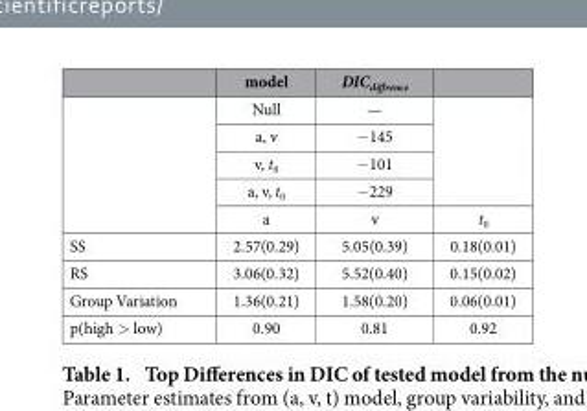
<table><thead><tr><td></td><td>model</td><td>DIC<sub>diffrence</sub></td><td></td></tr></thead><tbody><tr><td rowspan="5"></td><td>Null</td><td>—</td><td rowspan="4"></td></tr><tr><td>a, v</td><td>− 145</td></tr><tr><td>v, t<sub>0</sub></td><td>− 101</td></tr><tr><td>a, v, t<sub>0</sub></td><td>− 229</td></tr><tr><td>a</td><td>v</td><td>t<sub>0</sub></td></tr><tr><td>SS</td><td>2.57(0.29)</td><td>5.05(0.39)</td><td>0.18(0.01)</td></tr><tr><td>RS</td><td>3.06(0.32)</td><td>5.52(0.40)</td><td>0.15(0.02)</td></tr><tr><td>Group Variation</td><td>1.36(0.21)</td><td>1.58(0.20)</td><td>0.06(0.01)</td></tr><tr><td>p(high &gt; low)</td><td>0.90</td><td>0.81</td><td>0.92</td></tr></tbody></table>